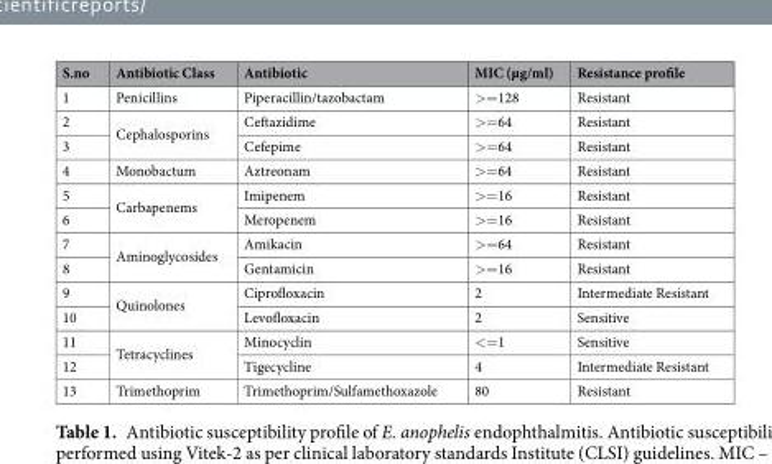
<table><thead><tr><td>S.no</td><td>Antibiotic Class</td><td>Antibiotic</td><td>MIC (µg/ml)</td><td>Resistance profile</td></tr></thead><tbody><tr><td>1</td><td>Penicillins</td><td>Piperacillin/tazobactam</td><td>&gt;=128</td><td>Resistant</td></tr><tr><td>2</td><td rowspan="2">Cephalosporins</td><td>Ceftazidime</td><td>&gt;=64</td><td>Resistant</td></tr><tr><td>3</td><td>Cefepime</td><td>&gt;=64</td><td>Resistant</td></tr><tr><td>4</td><td>Monobactum</td><td>Aztreonam</td><td>&gt;=64</td><td>Resistant</td></tr><tr><td>5</td><td rowspan="2">Carbapenems</td><td>Imipenem</td><td>&gt;=16</td><td>Resistant</td></tr><tr><td>6</td><td>Meropenem</td><td>&gt;=16</td><td>Resistant</td></tr><tr><td>7</td><td rowspan="2">Aminoglycosides</td><td>Amikacin</td><td>&gt;=64</td><td>Resistant</td></tr><tr><td>8</td><td>Gentamicin</td><td>&gt;=16</td><td>Resistant</td></tr><tr><td>9</td><td rowspan="2">Quinolones</td><td>Ciprofloxacin</td><td>2</td><td>Intermediate Resistant</td></tr><tr><td>10</td><td>Levofloxacin</td><td>2</td><td>Sensitive</td></tr><tr><td>11</td><td rowspan="2">Tetracyclines</td><td>Minocyclin</td><td>&lt;=1</td><td>Sensitive</td></tr><tr><td>12</td><td>Tigecycline</td><td>4</td><td>Intermediate Resistant</td></tr><tr><td>13</td><td>Trimethoprim</td><td>Trimethoprim/Sulfamethoxazole</td><td>80</td><td>Resistant</td></tr></tbody></table>